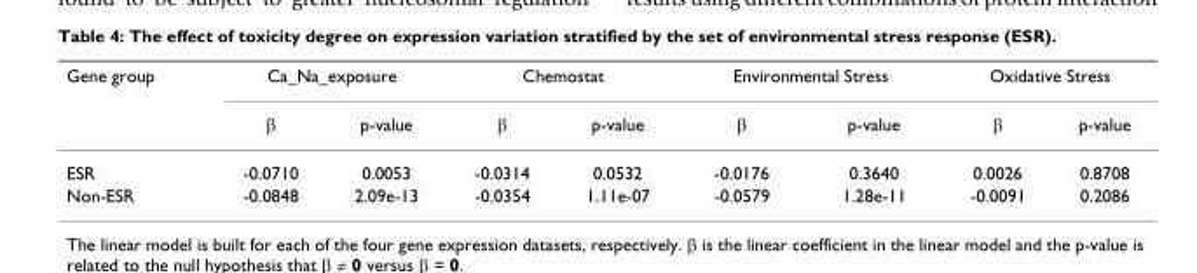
<table><thead><tr><td rowspan="2">Gene group</td><td colspan="2">Ca_Na_exposure</td><td colspan="2">Chemostat</td><td colspan="2">Environmental Stress</td><td colspan="2">Oxidative Stress</td></tr><tr><td>β</td><td>p-value</td><td>β</td><td>p-value</td><td>β</td><td>p-value</td><td>β</td><td>p-value</td></tr></thead><tbody><tr><td>ESR</td><td>-0.0710</td><td>0.0053</td><td>-0.0314</td><td>0.0532</td><td>-0.0176</td><td>0.3640</td><td>0.0026</td><td>0.8708</td></tr><tr><td>Non-ESR</td><td>-0.0848</td><td>2.09e-13</td><td>-0.0354</td><td>1.11e-07</td><td>-0.0579</td><td>1.28e-11</td><td>-0.0091</td><td>0.2086</td></tr></tbody></table>